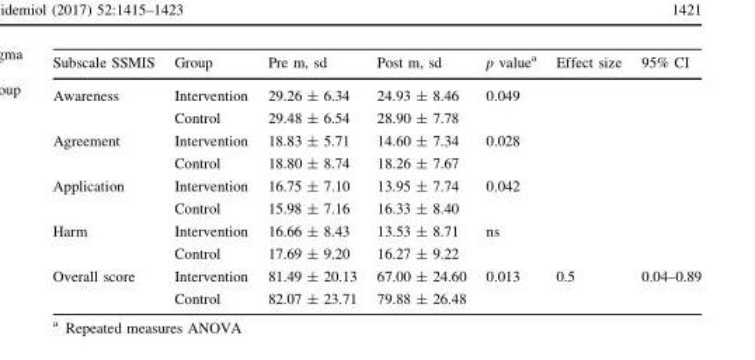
<table><thead><tr><td>Subscale SSMIS</td><td>Group</td><td>Pre m, sd</td><td>Post m, sd</td><td>p value<sup>a</sup></td><td>Effect size</td><td>95% CI</td></tr></thead><tbody><tr><td rowspan="2">Awareness</td><td>Intervention</td><td>29.26 ± 6.34</td><td>24.93 ± 8.46</td><td rowspan="2">0.049</td><td rowspan="2"></td><td rowspan="2"></td></tr><tr><td>Control</td><td>29.48 ± 6.54</td><td>28.90 ± 7.78</td></tr><tr><td rowspan="2">Agreement</td><td>Intervention</td><td>18.83 ± 5.71</td><td>14.60 ± 7.34</td><td rowspan="2">0.028</td><td rowspan="2"></td><td rowspan="2"></td></tr><tr><td>Control</td><td>18.80 ± 8.74</td><td>18.26 ± 7.67</td></tr><tr><td rowspan="2">Application</td><td>Intervention</td><td>16.75 ± 7.10</td><td>13.95 ± 7.74</td><td rowspan="2">0.042</td><td rowspan="2"></td><td rowspan="2"></td></tr><tr><td>Control</td><td>15.98 ± 7.16</td><td>16.33 ± 8.40</td></tr><tr><td rowspan="2">Harm</td><td>Intervention</td><td>16.66 ± 8.43</td><td>13.53 ± 8.71</td><td rowspan="2">ns</td><td rowspan="2"></td><td rowspan="2"></td></tr><tr><td>Control</td><td>17.69 ± 9.20</td><td>16.27 ± 9.22</td></tr><tr><td rowspan="2">Overall score</td><td>Intervention</td><td>81.49 ± 20.13</td><td>67.00 ± 24.60</td><td rowspan="2">0.013</td><td rowspan="2">0.5</td><td rowspan="2">0.04–0.89</td></tr><tr><td>Control</td><td>82.07 ± 23.71</td><td>79.88 ± 26.48</td></tr></tbody></table>